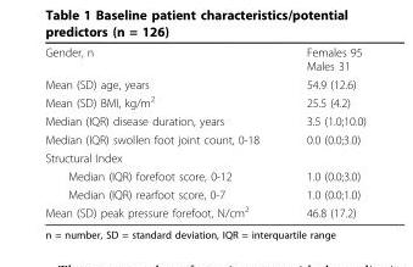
<table><tbody><tr><td>Gender, n</td><td>Females 95 Males 31</td></tr><tr><td>Mean (SD) age, years</td><td>54.9 (12.6)</td></tr><tr><td>Mean (SD) BMI, kg/m<sup>2</sup></td><td>25.5 (4.2)</td></tr><tr><td>Median (IQR) disease duration, years</td><td>3.5 (1.0;10.0)</td></tr><tr><td>Median (IQR) swollen foot joint count, 0-18</td><td>0.0 (0.0;3.0)</td></tr><tr><td colspan="2">Structural Index</td></tr><tr><td>Median (IQR) forefoot score, 0-12</td><td>1.0 (0.0;3.0)</td></tr><tr><td>Median (IQR) rearfoot score, 0-7</td><td>1.0 (0.0;1.0)</td></tr><tr><td>Mean (SD) peak pressure forefoot, N/cm<sup>2</sup></td><td>46.8 (17.2)</td></tr></tbody></table>